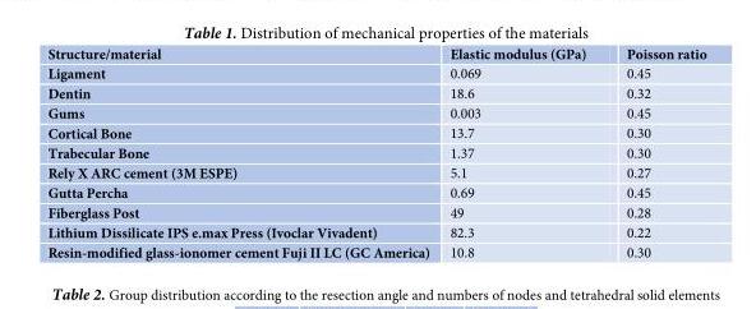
<table><thead><tr><td>Structure/material</td><td>Elastic modulus (GPa)</td><td>Poisson ratio</td></tr></thead><tbody><tr><td>Ligament</td><td>0.069</td><td>0.45</td></tr><tr><td>Dentin</td><td>18.6</td><td>0.32</td></tr><tr><td>Gums</td><td>0.003</td><td>0.45</td></tr><tr><td>Cortical Bone</td><td>13.7</td><td>0.30</td></tr><tr><td>Trabecular Bone</td><td>1.37</td><td>0.30</td></tr><tr><td>Rely X ARC cement (3M ESPE)</td><td>5.1</td><td>0.27</td></tr><tr><td>Gutta Percha</td><td>0.69</td><td>0.45</td></tr><tr><td>Fiberglass Post</td><td>49</td><td>0.28</td></tr><tr><td>Lithium Dissilicate IPS e.max Press (Ivoclar Vivadent)</td><td>82.3</td><td>0.22</td></tr><tr><td>Resin-modified glass-ionomer cement Fuji II LC (GC America)</td><td>10.8</td><td>0.30</td></tr></tbody></table>